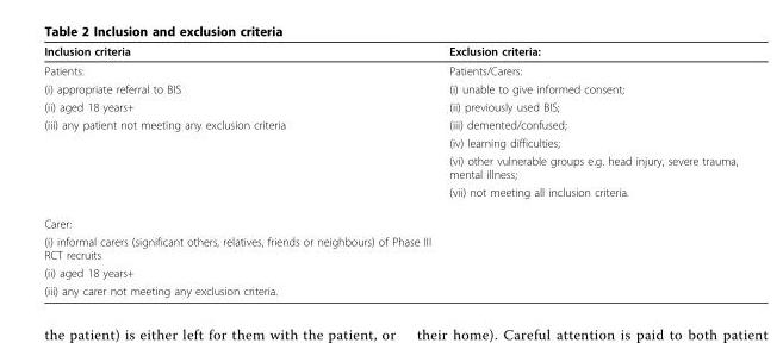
<table><thead><tr><td>Inclusion criteria</td><td>Exclusion criteria:</td></tr></thead><tbody><tr><td>Patients:</td><td>Patients/Carers:</td></tr><tr><td>(i) appropriate referral to BIS</td><td>(i) unable to give informed consent;</td></tr><tr><td>(ii) aged 18 years+</td><td>(ii) previously used BIS;</td></tr><tr><td rowspan="4">(iii) any patient not meeting any exclusion criteria</td><td>(iii) demented/confused;</td></tr><tr><td>(iv) learning difficulties;</td></tr><tr><td>(vi) other vulnerable groups e.g. head injury, severe trauma, mental illness;</td></tr><tr><td>(vii) not meeting all inclusion criteria.</td></tr><tr><td colspan="2">Carer:</td></tr><tr><td colspan="2">(i) informal carers (significant others, relatives, friends or neighbours) of Phase III RCT recruits</td></tr><tr><td colspan="2">(ii) aged 18 years+</td></tr><tr><td>(iii) any carer not meeting any exclusion criteria.</td><td></td></tr></tbody></table>